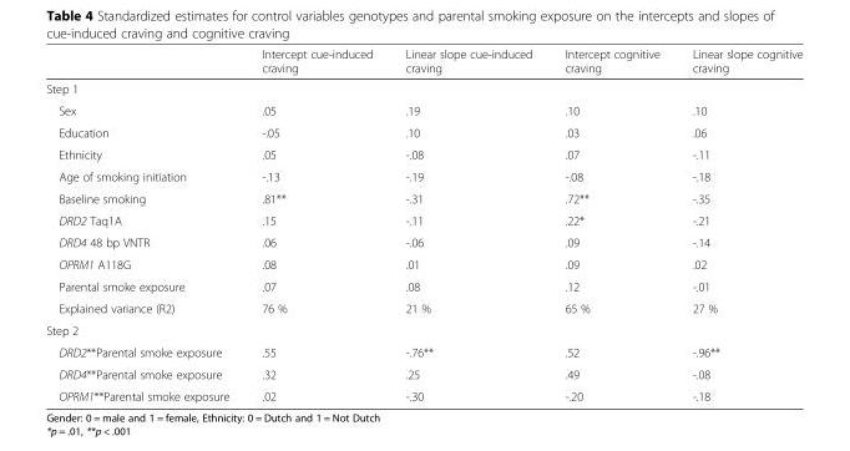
<table><thead><tr><td></td><td>Intercept cue-induced craving</td><td>Linear slope cue-induced craving</td><td>Intercept cognitive craving</td><td>Linear slope cognitive craving</td></tr></thead><tbody><tr><td colspan="5">Step 1</td></tr><tr><td>Sex</td><td>.05</td><td>.19</td><td>.10</td><td>.10</td></tr><tr><td>Education</td><td>-.05</td><td>.10</td><td>.03</td><td>.06</td></tr><tr><td>Ethnicity</td><td>.05</td><td>-.08</td><td>.07</td><td>-.11</td></tr><tr><td>Age of smoking initiation</td><td>-.13</td><td>-.19</td><td>-.08</td><td>-.18</td></tr><tr><td>Baseline smoking</td><td>.81**</td><td>-.31</td><td>.72**</td><td>-.35</td></tr><tr><td>DRD2 Taq1A</td><td>.15</td><td>-.11</td><td>.22*</td><td>-.21</td></tr><tr><td>DRD4 48 bp VNTR</td><td>.06</td><td>-.06</td><td>.09</td><td>-.14</td></tr><tr><td>OPRM1 A118G</td><td>.08</td><td>.01</td><td>.09</td><td>.02</td></tr><tr><td>Parental smoke exposure</td><td>.07</td><td>.08</td><td>.12</td><td>-.01</td></tr><tr><td>Explained variance (R2)</td><td>76 %</td><td>21 %</td><td>65 %</td><td>27 %</td></tr><tr><td colspan="5">Step 2</td></tr><tr><td>DRD2**Parental smoke exposure</td><td>.55</td><td>-.76**</td><td>.52</td><td>-.96**</td></tr><tr><td>DRD4**Parental smoke exposure</td><td>.32</td><td>.25</td><td>.49</td><td>-.08</td></tr><tr><td>OPRM1**Parental smoke exposure</td><td>.02</td><td>-.30</td><td>-.20</td><td>-.18</td></tr></tbody></table>